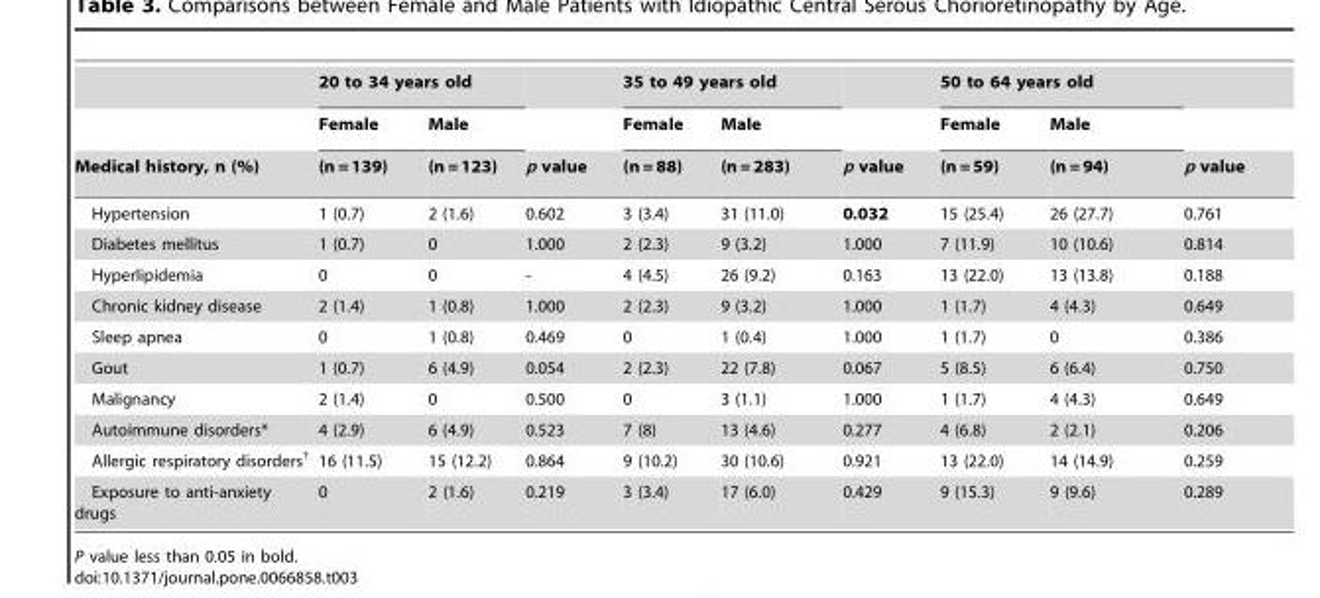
<table><thead><tr><td rowspan="2"></td><td colspan="2">20 to 34 years old</td><td rowspan="2"></td><td colspan="2">35 to 49 years old</td><td rowspan="2"></td><td colspan="2">50 to 64 years old</td><td rowspan="2"></td></tr><tr><td>Female</td><td>Male</td><td>Female</td><td>Male</td><td>Female</td><td>Male</td></tr></thead><tbody><tr><td>Medical history, n (%)</td><td>(n = 139)</td><td>(n = 123)</td><td>p value</td><td>(n = 88)</td><td>(n = 283)</td><td>p value</td><td>(n = 59)</td><td>(n = 94)</td><td>p value</td></tr><tr><td>Hypertension</td><td>1 (0.7)</td><td>2 (1.6)</td><td>0.602</td><td>3 (3.4)</td><td>31 (11.0)</td><td>0.032</td><td>15 (25.4)</td><td>26 (27.7)</td><td>0.761</td></tr><tr><td>Diabetes mellitus</td><td>1 (0.7)</td><td>0</td><td>1.000</td><td>2 (2.3)</td><td>9 (3.2)</td><td>1.000</td><td>7 (11.9)</td><td>10 (10.6)</td><td>0.814</td></tr><tr><td>Hyperlipidemia</td><td>0</td><td>0</td><td>-</td><td>4 (4.5)</td><td>26 (9.2)</td><td>0.163</td><td>13 (22.0)</td><td>13 (13.8)</td><td>0.188</td></tr><tr><td>Chronic kidney disease</td><td>2 (1.4)</td><td>1 (0.8)</td><td>1.000</td><td>2 (2.3)</td><td>9 (3.2)</td><td>1.000</td><td>1 (1.7)</td><td>4 (4.3)</td><td>0.649</td></tr><tr><td>Sleep apnea</td><td>0</td><td>1 (0.8)</td><td>0.469</td><td>0</td><td>1 (0.4)</td><td>1.000</td><td>1 (1.7)</td><td>0</td><td>0.386</td></tr><tr><td>Gout</td><td>1 (0.7)</td><td>6 (4.9)</td><td>0.054</td><td>2 (2.3)</td><td>22 (7.8)</td><td>0.067</td><td>5 (8.5)</td><td>6 (6.4)</td><td>0.750</td></tr><tr><td>Malignancy</td><td>2 (1.4)</td><td>0</td><td>0.500</td><td>0</td><td>3 (1.1)</td><td>1.000</td><td>1 (1.7)</td><td>4 (4.3)</td><td>0.649</td></tr><tr><td>Autoimmune disorders*</td><td>4 (2.9)</td><td>6 (4.9)</td><td>0.523</td><td>7 (8)</td><td>13 (4.6)</td><td>0.277</td><td>4 (6.8)</td><td>2 (2.1)</td><td>0.206</td></tr><tr><td>Allergic respiratory disorders<sup>†</sup></td><td>16 (11.5)</td><td>15 (12.2)</td><td>0.864</td><td>9 (10.2)</td><td>30 (10.6)</td><td>0.921</td><td>13 (22.0)</td><td>14 (14.9)</td><td>0.259</td></tr><tr><td>Exposure to anti-anxiety drugs</td><td>0</td><td>2 (1.6)</td><td>0.219</td><td>3 (3.4)</td><td>17 (6.0)</td><td>0.429</td><td>9 (15.3)</td><td>9 (9.6)</td><td>0.289</td></tr></tbody></table>